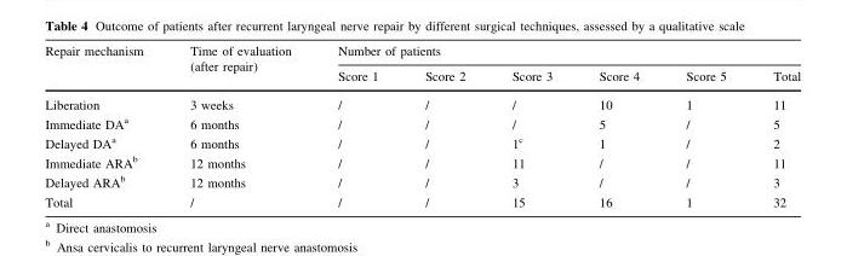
<table><thead><tr><td rowspan="2">Repair mechanism</td><td rowspan="2">Time of evaluation (after repair)</td><td colspan="6">Number of patients</td></tr><tr><td>Score 1</td><td>Score 2</td><td>Score 3</td><td>Score 4</td><td>Score 5</td><td>Total</td></tr></thead><tbody><tr><td>Liberation</td><td>3 weeks</td><td>/</td><td>/</td><td>/</td><td>10</td><td>1</td><td>11</td></tr><tr><td>Immediate DA<sup>a</sup></td><td>6 months</td><td>/</td><td>/</td><td>/</td><td>5</td><td>/</td><td>5</td></tr><tr><td>Delayed DA<sup>a</sup></td><td>6 months</td><td>/</td><td>/</td><td>1<sup>c</sup></td><td>1</td><td>/</td><td>2</td></tr><tr><td>Immediate ARA<sup>b</sup></td><td>12 months</td><td>/</td><td>/</td><td>11</td><td>/</td><td>/</td><td>11</td></tr><tr><td>Delayed ARA<sup>b</sup></td><td>12 months</td><td>/</td><td>/</td><td>3</td><td>/</td><td>/</td><td>3</td></tr><tr><td>Total</td><td>/</td><td>/</td><td>/</td><td>15</td><td>16</td><td>1</td><td>32</td></tr></tbody></table>